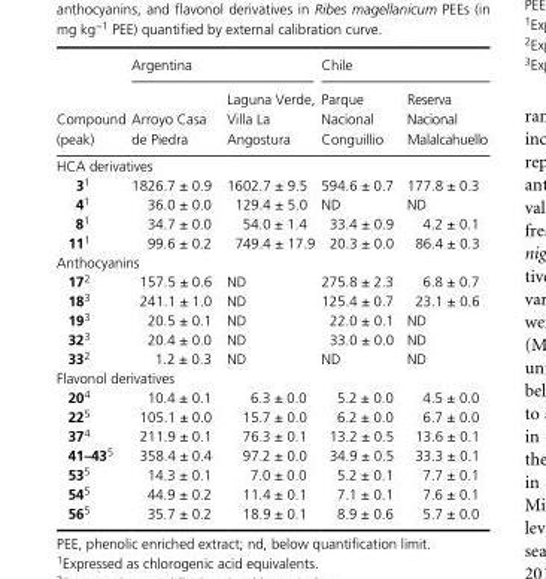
<table><thead><tr><td rowspan="2">Compound (peak)</td><td colspan="2">Argentina</td><td colspan="2">Chile</td></tr><tr><td>Arroyo Casa de Piedra</td><td>Laguna Verde, Villa La Angostura</td><td>Parque Nacional Conguillio</td><td>Reserva Nacional Malalcahuello</td></tr></thead><tbody><tr><td colspan="5">HCA derivatives</td></tr><tr><td>31</td><td>1826.7 ± 0.9</td><td>1602.7 ± 9.5</td><td>594.6 ± 0.7</td><td>177.8 ± 0.3</td></tr><tr><td>41</td><td>36.0 ± 0.0</td><td>129.4 ± 5.0</td><td>ND</td><td>ND</td></tr><tr><td>81</td><td>34.7 ± 0.0</td><td>54.0 ± 1.4</td><td>33.4 ± 0.9</td><td>4.2 ± 0.1</td></tr><tr><td>111</td><td>99.6 ± 0.2</td><td>749.4 ± 17.9</td><td>20.3 ± 0.0</td><td>86.4 ± 0.3</td></tr><tr><td colspan="5">Anthocyanins</td></tr><tr><td>172</td><td>157.5 ± 0.6</td><td>ND</td><td>275.8 ± 2.3</td><td>6.8 ± 0.7</td></tr><tr><td>183</td><td>241.1 ± 1.0</td><td>ND</td><td>125.4 ± 0.7</td><td>23.1 ± 0.6</td></tr><tr><td>193</td><td>20.5 ± 0.1</td><td>ND</td><td>22.0 ± 0.1</td><td>ND</td></tr><tr><td>323</td><td>20.4 ± 0.0</td><td>ND</td><td>33.0 ± 0.0</td><td>ND</td></tr><tr><td>332</td><td>1.2 ± 0.3</td><td>ND</td><td>ND</td><td>ND</td></tr><tr><td colspan="5">Flavonol derivatives</td></tr><tr><td>204</td><td>10.4 ± 0.1</td><td>6.3 ± 0.0</td><td>5.2 ± 0.0</td><td>4.5 ± 0.0</td></tr><tr><td>225</td><td>105.1 ± 0.0</td><td>15.7 ± 0.0</td><td>6.2 ± 0.0</td><td>6.7 ± 0.0</td></tr><tr><td>374</td><td>211.9 ± 0.1</td><td>76.3 ± 0.1</td><td>13.2 ± 0.5</td><td>13.6 ± 0.1</td></tr><tr><td>41–435</td><td>358.4 ± 0.4</td><td>97.2 ± 0.0</td><td>34.9 ± 0.5</td><td>33.3 ± 0.1</td></tr><tr><td>535</td><td>14.3 ± 0.1</td><td>7.0 ± 0.0</td><td>5.2 ± 0.1</td><td>7.7 ± 0.1</td></tr><tr><td>545</td><td>44.9 ± 0.2</td><td>11.4 ± 0.1</td><td>7.1 ± 0.1</td><td>7.6 ± 0.1</td></tr><tr><td>565</td><td>35.7 ± 0.2</td><td>18.9 ± 0.1</td><td>8.9 ± 0.6</td><td>5.7 ± 0.0</td></tr></tbody></table>